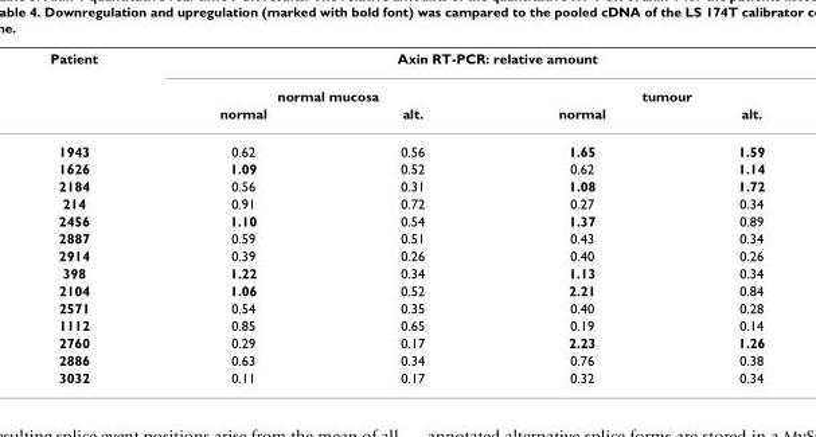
<table><thead><tr><td rowspan="3">Patient</td><td colspan="4">Axin RT-PCR: relative amount</td></tr><tr><td colspan="2">normal mucosa</td><td colspan="2">tumour</td></tr><tr><td>normal</td><td>alt.</td><td>normal</td><td>alt.</td></tr></thead><tbody><tr><td>1943</td><td>0.62</td><td>0.56</td><td>1.65</td><td>1.59</td></tr><tr><td>1626</td><td>1.09</td><td>0.52</td><td>0.62</td><td>1.14</td></tr><tr><td>2184</td><td>0.56</td><td>0.31</td><td>1.08</td><td>1.72</td></tr><tr><td>214</td><td>0.91</td><td>0.72</td><td>0.27</td><td>0.34</td></tr><tr><td>2456</td><td>1.10</td><td>0.54</td><td>1.37</td><td>0.89</td></tr><tr><td>2887</td><td>0.59</td><td>0.51</td><td>0.43</td><td>0.34</td></tr><tr><td>2914</td><td>0.39</td><td>0.26</td><td>0.40</td><td>0.26</td></tr><tr><td>398</td><td>1.22</td><td>0.34</td><td>1.13</td><td>0.34</td></tr><tr><td>2104</td><td>1.06</td><td>0.52</td><td>2.21</td><td>0.84</td></tr><tr><td>2571</td><td>0.54</td><td>0.35</td><td>0.40</td><td>0.28</td></tr><tr><td>1112</td><td>0.85</td><td>0.65</td><td>0.19</td><td>0.14</td></tr><tr><td>2760</td><td>0.29</td><td>0.17</td><td>2.23</td><td>1.26</td></tr><tr><td>2886</td><td>0.63</td><td>0.34</td><td>0.76</td><td>0.38</td></tr><tr><td>3032</td><td>0.11</td><td>0.17</td><td>0.32</td><td>0.34</td></tr></tbody></table>